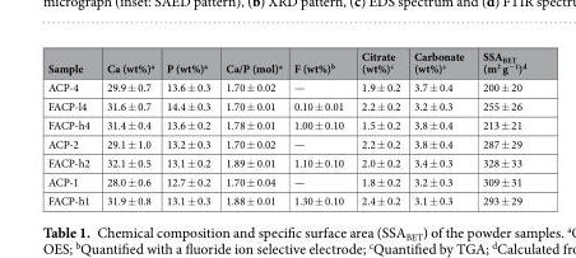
<table><thead><tr><td>Sample</td><td>Ca (wt%)<sup>a</sup></td><td>P (wt%)<sup>a</sup></td><td>Ca/P (mol)<sup>a</sup></td><td>F (wt%)<sup>b</sup></td><td>Citrate (wt%)<sup>c</sup></td><td>Carbonate (wt%)<sup>c</sup></td><td>SSA<sub>BET</sub> (m<sup>2</sup> g<sup>−1</sup>)<sup>d</sup></td></tr></thead><tbody><tr><td>ACP-4</td><td>29.9 ± 0.7</td><td>13.6 ± 0.3</td><td>1.70 ± 0.02</td><td>—</td><td>1.9 ± 0.2</td><td>3.7 ± 0.4</td><td>200 ± 20</td></tr><tr><td>FACP-l4</td><td>31.6 ± 0.7</td><td>14.4 ± 0.3</td><td>1.70 ± 0.01</td><td>0.10 ± 0.01</td><td>2.2 ± 0.2</td><td>3.2 ± 0.3</td><td>255 ± 26</td></tr><tr><td>FACP-h4</td><td>31.4 ± 0.4</td><td>13.6 ± 0.2</td><td>1.78 ± 0.01</td><td>1.00 ± 0.10</td><td>1.5 ± 0.2</td><td>3.8 ± 0.4</td><td>213 ± 21</td></tr><tr><td>ACP-2</td><td>29.1 ± 1.0</td><td>13.2 ± 0.3</td><td>1.70 ± 0.02</td><td>—</td><td>2.2 ± 0.2</td><td>3.8 ± 0.4</td><td>287 ± 29</td></tr><tr><td>FACP-h2</td><td>32.1 ± 0.5</td><td>13.1 ± 0.2</td><td>1.89 ± 0.01</td><td>1.10 ± 0.10</td><td>2.0 ± 0.2</td><td>3.4 ± 0.3</td><td>328 ± 33</td></tr><tr><td>ACP-1</td><td>28.0 ± 0.6</td><td>12.7 ± 0.2</td><td>1.70 ± 0.04</td><td>—</td><td>1.8 ± 0.2</td><td>3.2 ± 0.3</td><td>309 ± 31</td></tr><tr><td>FACP-h1</td><td>31.9 ± 0.8</td><td>13.1 ± 0.3</td><td>1.88 ± 0.01</td><td>1.30 ± 0.10</td><td>2.4 ± 0.2</td><td>3.1 ± 0.3</td><td>293 ± 29</td></tr></tbody></table>